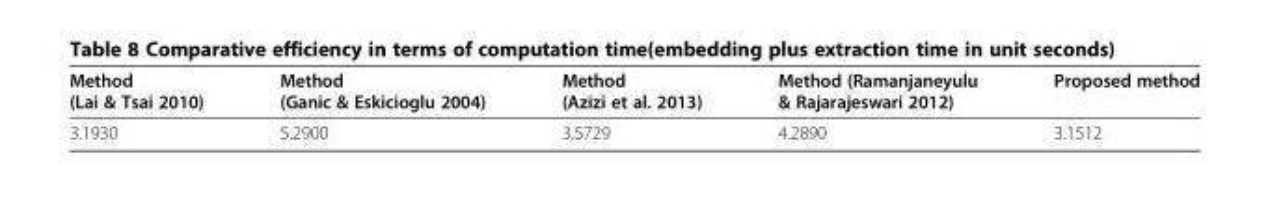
<table><thead><tr><td>Method (Lai &amp; Tsai 2010)</td><td>Method (Ganic &amp; Eskicioglu 2004)</td><td>Method (Azizi et al. 2013)</td><td>Method (Ramanjaneyulu &amp; Rajarajeswari 2012)</td><td>Proposed method</td></tr></thead><tbody><tr><td>3.1930</td><td>5.2900</td><td>3.5729</td><td>4.2890</td><td>3.1512</td></tr></tbody></table>